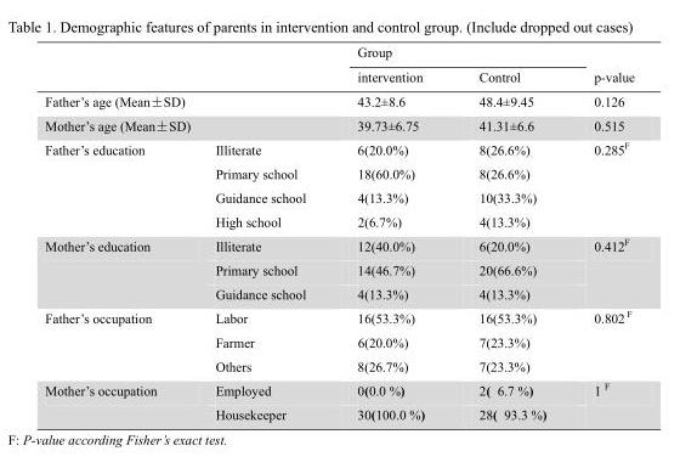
<table><thead><tr><td rowspan="2"></td><td rowspan="2"></td><td colspan="2">Group</td><td rowspan="2">p-value</td></tr><tr><td>intervention</td><td>Control</td></tr></thead><tbody><tr><td>Father’s age (Mean±SD)</td><td></td><td>43.2±8.6</td><td>48.4±9.45</td><td>0.126</td></tr><tr><td>Mother’s age (Mean±SD)</td><td></td><td>39.73±6.75</td><td>41.31±6.6</td><td>0.515</td></tr><tr><td rowspan="4">Father’s education</td><td>Illiterate</td><td>6(20.0%)</td><td>8(26.6%)</td><td rowspan="4">0.285<sup>F</sup></td></tr><tr><td>Primary school</td><td>18(60.0%)</td><td>8(26.6%)</td></tr><tr><td>Guidance school</td><td>4(13.3%)</td><td>10(33.3%)</td></tr><tr><td>High school</td><td>2(6.7%)</td><td>4(13.3%)</td></tr><tr><td rowspan="3">Mother’s education</td><td>Illiterate</td><td>12(40.0%)</td><td>6(20.0%)</td><td rowspan="3">0.412<sup>F</sup></td></tr><tr><td>Primary school</td><td>14(46.7%)</td><td>20(66.6%)</td></tr><tr><td>Guidance school</td><td>4(13.3%)</td><td>4(13.3%)</td></tr><tr><td rowspan="3">Father’s occupation</td><td>Labor</td><td>16(53.3%)</td><td>16(53.3%)</td><td rowspan="3">0.802 <sup>F</sup></td></tr><tr><td>Farmer</td><td>6(20.0%)</td><td>7(23.3%)</td></tr><tr><td>Others</td><td>8(26.7%)</td><td>7(23.3%)</td></tr><tr><td rowspan="2">Mother’s occupation</td><td>Employed</td><td>0(0.0 %)</td><td>2( 6.7 %)</td><td rowspan="2">1 <sup>F</sup></td></tr><tr><td>Housekeeper</td><td>30(100.0 %)</td><td>28( 93.3 %)</td></tr></tbody></table>